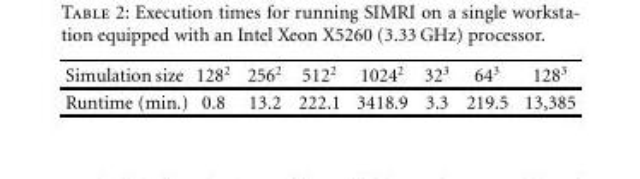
<table><thead><tr><td>Simulation size</td><td>128<sup>2</sup></td><td>256<sup>2</sup></td><td>512<sup>2</sup></td><td>1024<sup>2</sup></td><td>32<sup>3</sup></td><td>64<sup>3</sup></td><td>128<sup>3</sup></td></tr></thead><tbody><tr><td>Runtime (min.)</td><td>0.8</td><td>13.2</td><td>222.1</td><td>3418.9</td><td>3.3</td><td>219.5</td><td>13,385</td></tr></tbody></table>